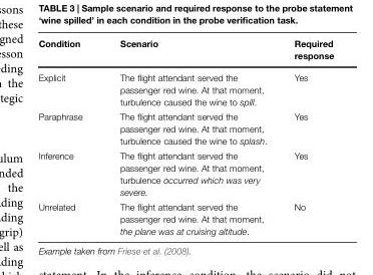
<table><thead><tr><td>Condition</td><td>Scenario</td><td>Required response</td></tr></thead><tbody><tr><td>Explicit</td><td>The flight attendant served the passenger red wine. At that moment, turbulence caused the wine to spill.</td><td>Yes</td></tr><tr><td>Paraphrase</td><td>The flight attendant served the passenger red wine. At that moment, turbulence caused the wine to splash.</td><td>Yes</td></tr><tr><td>Inference</td><td>The flight attendant served the passenger red wine. At that moment, turbulence occurred which was very severe.</td><td>Yes</td></tr><tr><td>Unrelated</td><td>The flight attendant served the passenger red wine. At that moment, the plane was at cruising altitude.</td><td>No</td></tr></tbody></table>